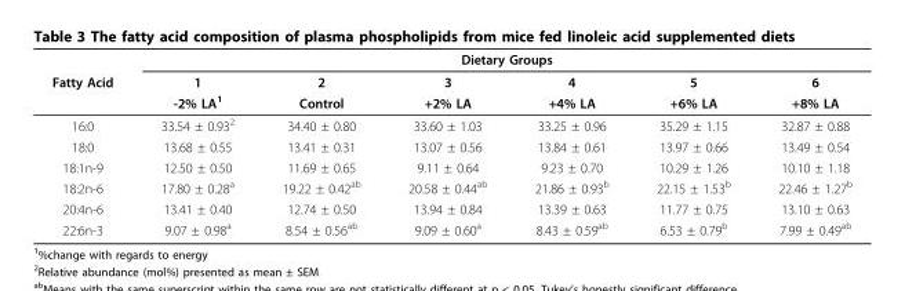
<table><thead><tr><td rowspan="3">Fatty Acid</td><td colspan="6">Dietary Groups</td></tr><tr><td rowspan="2">1 -2% LA<sup>1</sup></td><td rowspan="2">2 Control</td><td rowspan="2">3 +2% LA</td><td rowspan="2">4 +4% LA</td><td rowspan="2">5 +6% LA</td><td rowspan="2">6 +8% LA</td></tr><tr></tr></thead><tbody><tr><td>16:0</td><td>33.54 ± 0.93<sup>2</sup></td><td>34.40 ± 0.80</td><td>33.60 ± 1.03</td><td>33.25 ± 0.96</td><td>35.29 ± 1.15</td><td>32.87 ± 0.88</td></tr><tr><td>18:0</td><td>13.68 ± 0.55</td><td>13.41 ± 0.31</td><td>13.07 ± 0.56</td><td>13.84 ± 0.61</td><td>13.97 ± 0.66</td><td>13.49 ± 0.54</td></tr><tr><td>18:1n-9</td><td>12.50 ± 0.50</td><td>11.69 ± 0.65</td><td>9.11 ± 0.64</td><td>9.23 ± 0.70</td><td>10.29 ± 1.26</td><td>10.10 ± 1.18</td></tr><tr><td>18:2n-6</td><td>17.80 ± 0.28<sup>a</sup></td><td>19.22 ± 0.42<sup>ab</sup></td><td>20.58 ± 0.44<sup>ab</sup></td><td>21.86 ± 0.93<sup>b</sup></td><td>22.15 ± 1.53<sup>b</sup></td><td>22.46 ± 1.27<sup>b</sup></td></tr><tr><td>20:4n-6</td><td>13.41 ± 0.40</td><td>12.74 ± 0.50</td><td>13.94 ± 0.84</td><td>13.39 ± 0.63</td><td>11.77 ± 0.75</td><td>13.10 ± 0.63</td></tr><tr><td>22:6n-3</td><td>9.07 ± 0.98<sup>a</sup></td><td>8.54 ± 0.56<sup>ab</sup></td><td>9.09 ± 0.60<sup>a</sup></td><td>8.43 ± 0.59<sup>ab</sup></td><td>6.53 ± 0.79<sup>b</sup></td><td>7.99 ± 0.49<sup>ab</sup></td></tr></tbody></table>